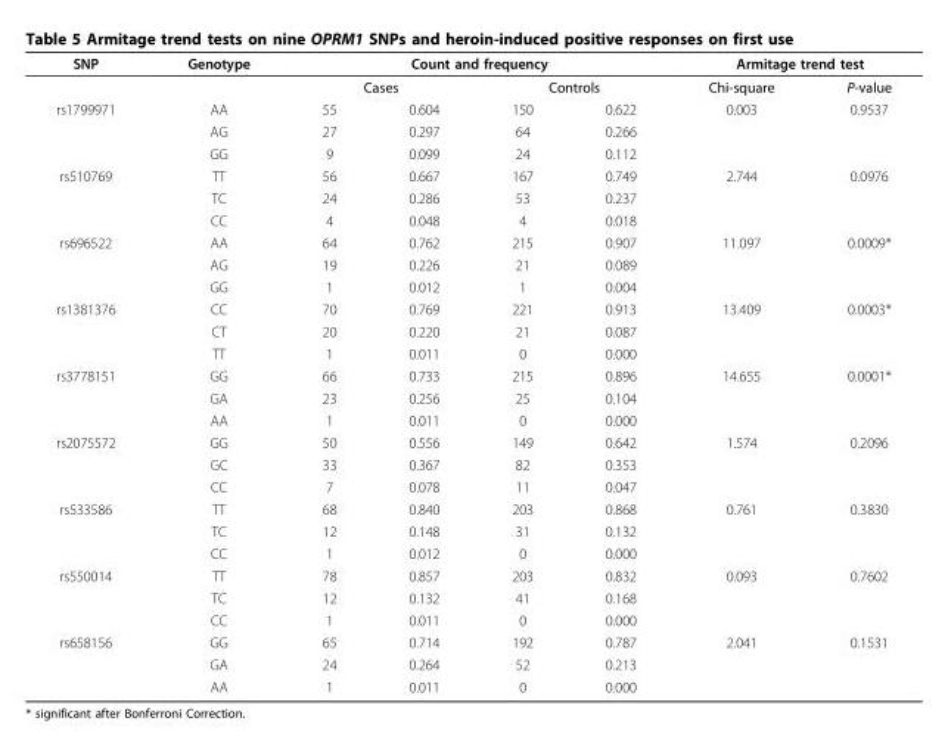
<table><thead><tr><td rowspan="3">SNP rs1799971</td><td rowspan="3">Genotype AA</td><td colspan="4">Count and frequency</td><td colspan="2">Armitage trend test</td></tr><tr><td colspan="2">Cases</td><td colspan="2">Controls</td><td rowspan="2">Chi-square 0.003</td><td rowspan="2">P-value 0.9537</td></tr><tr><td>55</td><td>0.604</td><td>150</td><td>0.622</td></tr></thead><tbody><tr><td></td><td>AG</td><td>27</td><td>0.297</td><td>64</td><td>0.266</td><td></td><td></td></tr><tr><td></td><td>GG</td><td>9</td><td>0.099</td><td>24</td><td>0.112</td><td></td><td></td></tr><tr><td rowspan="3">rs510769</td><td>TT</td><td>56</td><td>0.667</td><td>167</td><td>0.749</td><td>2.744</td><td>0.0976</td></tr><tr><td>TC</td><td>24</td><td>0.286</td><td>53</td><td>0.237</td><td></td><td></td></tr><tr><td>CC</td><td>4</td><td>0.048</td><td>4</td><td>0.018</td><td></td><td></td></tr><tr><td rowspan="3">rs696522</td><td>AA</td><td>64</td><td>0.762</td><td>215</td><td>0.907</td><td>11.097</td><td>0.0009*</td></tr><tr><td>AG</td><td>19</td><td>0.226</td><td>21</td><td>0.089</td><td></td><td></td></tr><tr><td>GG</td><td>1</td><td>0.012</td><td>1</td><td>0.004</td><td></td><td></td></tr><tr><td rowspan="3">rs1381376</td><td>CC</td><td>70</td><td>0.769</td><td>221</td><td>0.913</td><td>13.409</td><td>0.0003*</td></tr><tr><td>CT</td><td>20</td><td>0.220</td><td>21</td><td>0.087</td><td></td><td></td></tr><tr><td>TT</td><td>1</td><td>0.011</td><td>0</td><td>0.000</td><td></td><td></td></tr><tr><td rowspan="3">rs3778151</td><td>GG</td><td>66</td><td>0.733</td><td>215</td><td>0.896</td><td>14.655</td><td>0.0001*</td></tr><tr><td>GA</td><td>23</td><td>0.256</td><td>25</td><td>0.104</td><td></td><td></td></tr><tr><td>AA</td><td>1</td><td>0.011</td><td>0</td><td>0.000</td><td></td><td></td></tr><tr><td rowspan="3">rs2075572</td><td>GG</td><td>50</td><td>0.556</td><td>149</td><td>0.642</td><td>1.574</td><td>0.2096</td></tr><tr><td>GC</td><td>33</td><td>0.367</td><td>82</td><td>0.353</td><td></td><td></td></tr><tr><td>CC</td><td>7</td><td>0.078</td><td>11</td><td>0.047</td><td></td><td></td></tr><tr><td rowspan="3">rs533586</td><td>TT</td><td>68</td><td>0.840</td><td>203</td><td>0.868</td><td>0.761</td><td>0.3830</td></tr><tr><td>TC</td><td>12</td><td>0.148</td><td>31</td><td>0.132</td><td></td><td></td></tr><tr><td>CC</td><td>1</td><td>0.012</td><td>0</td><td>0.000</td><td></td><td></td></tr><tr><td rowspan="3">rs550014</td><td>TT</td><td>78</td><td>0.857</td><td>203</td><td>0.832</td><td>0.093</td><td>0.7602</td></tr><tr><td>TC</td><td>12</td><td>0.132</td><td>41</td><td>0.168</td><td></td><td></td></tr><tr><td>CC</td><td>1</td><td>0.011</td><td>0</td><td>0.000</td><td></td><td></td></tr><tr><td rowspan="3">rs658156</td><td>GG</td><td>65</td><td>0.714</td><td>192</td><td>0.787</td><td>2.041</td><td>0.1531</td></tr><tr><td>GA</td><td>24</td><td>0.264</td><td>52</td><td>0.213</td><td></td><td></td></tr><tr><td>AA</td><td>1</td><td>0.011</td><td>0</td><td>0.000</td><td></td><td></td></tr></tbody></table>